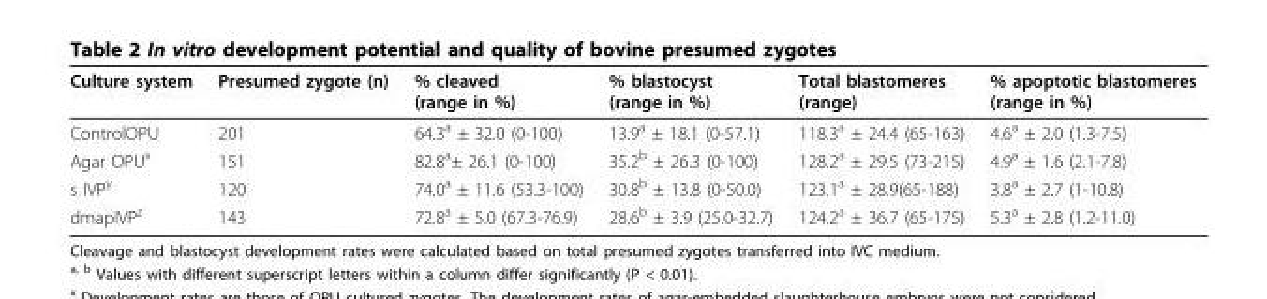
<table><thead><tr><td>Culture system</td><td>Presumed zygote (n)</td><td>% cleaved (range in %)</td><td>% blastocyst (range in %)</td><td>Total blastomeres (range)</td><td>% apoptotic blastomeres (range in %)</td></tr></thead><tbody><tr><td>ControlOPU</td><td>201</td><td>64.3<sup>a</sup> ± 32.0 (0-100)</td><td>13.9<sup>a</sup> ± 18.1 (0-57.1)</td><td>118.3<sup>a</sup> ± 24.4 (65-163)</td><td>4.6<sup>a</sup> ± 2.0 (1.3-7.5)</td></tr><tr><td>Agar OPU<sup>x</sup></td><td>151</td><td>82.8<sup>a</sup>± 26.1 (0-100)</td><td>35.2<sup>b</sup> ± 26.3 (0-100)</td><td>128.2<sup>a</sup> ± 29.5 (73-215)</td><td>4.9<sup>a</sup> ± 1.6 (2.1-7.8)</td></tr><tr><td>s IVP<sup>y</sup></td><td>120</td><td>74.0<sup>a</sup> ± 11.6 (53.3-100)</td><td>30.8<sup>b</sup> ± 13.8 (0-50.0)</td><td>123.1<sup>a</sup> ± 28.9(65-188)</td><td>3.8<sup>a</sup> ± 2.7 (1-10.8)</td></tr><tr><td>dmapIVP<sup>z</sup></td><td>143</td><td>72.8<sup>a</sup> ± 5.0 (67.3-76.9)</td><td>28.6<sup>b</sup> ± 3.9 (25.0-32.7)</td><td>124.2<sup>a</sup> ± 36.7 (65-175)</td><td>5.3<sup>a</sup> ± 2.8 (1.2-11.0)</td></tr></tbody></table>